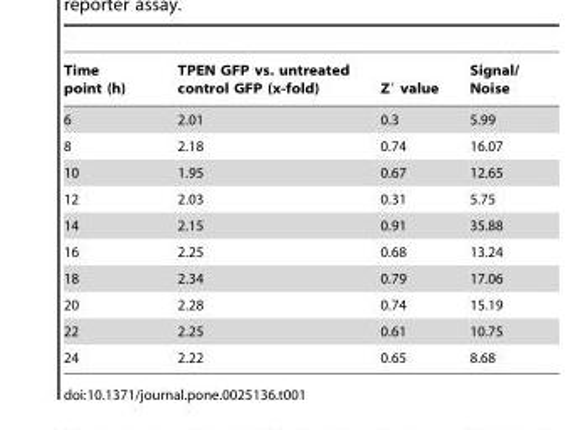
<table><thead><tr><td>Time point (h)</td><td>TPEN GFP vs. untreated control GFP (x-fold)</td><td>Z′ value</td><td>Signal/ Noise</td></tr></thead><tbody><tr><td>6</td><td>2.01</td><td>0.3</td><td>5.99</td></tr><tr><td>8</td><td>2.18</td><td>0.74</td><td>16.07</td></tr><tr><td>10</td><td>1.95</td><td>0.67</td><td>12.65</td></tr><tr><td>12</td><td>2.03</td><td>0.31</td><td>5.75</td></tr><tr><td>14</td><td>2.15</td><td>0.91</td><td>35.88</td></tr><tr><td>16</td><td>2.25</td><td>0.68</td><td>13.24</td></tr><tr><td>18</td><td>2.34</td><td>0.79</td><td>17.06</td></tr><tr><td>20</td><td>2.28</td><td>0.74</td><td>15.19</td></tr><tr><td>22</td><td>2.25</td><td>0.61</td><td>10.75</td></tr><tr><td>24</td><td>2.22</td><td>0.65</td><td>8.68</td></tr></tbody></table>